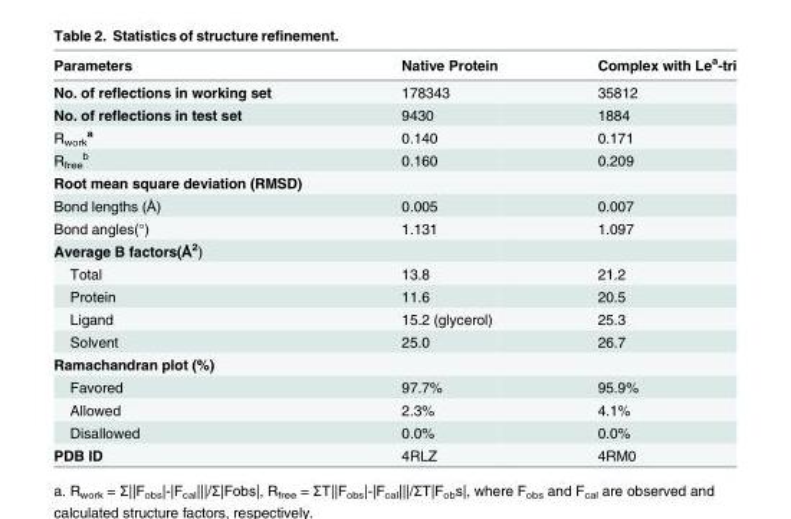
<table><thead><tr><td>Parameters</td><td>Native Protein</td><td>Complex with Le<sup>a</sup>-tri</td></tr></thead><tbody><tr><td>No. of reflections in working set</td><td>178343</td><td>35812</td></tr><tr><td>No. of reflections in test set</td><td>9430</td><td>1884</td></tr><tr><td>R<sub>work</sub> <sup>a</sup></td><td>0.140</td><td>0.171</td></tr><tr><td>R<sub>free</sub> <sup>b</sup></td><td>0.160</td><td>0.209</td></tr><tr><td colspan="3">Root mean square deviation (RMSD)</td></tr><tr><td>Bond lengths (Å)</td><td>0.005</td><td>0.007</td></tr><tr><td>Bond angles(°)</td><td>1.131</td><td>1.097</td></tr><tr><td colspan="3">Average B factors(Å<sup>2</sup>)</td></tr><tr><td>Total</td><td>13.8</td><td>21.2</td></tr><tr><td>Protein</td><td>11.6</td><td>20.5</td></tr><tr><td>Ligand</td><td>15.2 (glycerol)</td><td>25.3</td></tr><tr><td>Solvent</td><td>25.0</td><td>26.7</td></tr><tr><td colspan="3">Ramachandran plot (%)</td></tr><tr><td>Favored</td><td>97.7%</td><td>95.9%</td></tr><tr><td>Allowed</td><td>2.3%</td><td>4.1%</td></tr><tr><td>Disallowed</td><td>0.0%</td><td>0.0%</td></tr><tr><td>PDB ID</td><td>4RLZ</td><td>4RM0</td></tr></tbody></table>